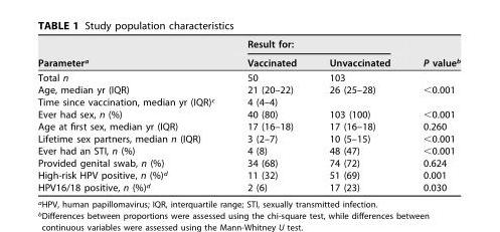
<table><thead><tr><td rowspan="2">Parameter<sup>a</sup></td><td colspan="2">Result for:</td><td rowspan="2">P value<sup>b</sup></td></tr><tr><td>Vaccinated</td><td>Unvaccinated</td></tr></thead><tbody><tr><td>Total n</td><td>50</td><td>103</td><td></td></tr><tr><td>Age, median yr (IQR)</td><td>21 (20–22)</td><td>26 (25–28)</td><td>&lt;0.001</td></tr><tr><td>Time since vaccination, median yr (IQR)<sup>c</sup></td><td>4 (4–4)</td><td></td><td></td></tr><tr><td>Ever had sex, n (%)</td><td>40 (80)</td><td>103 (100)</td><td>&lt;0.001</td></tr><tr><td>Age at first sex, median yr (IQR)</td><td>17 (16–18)</td><td>17 (16–18)</td><td>0.260</td></tr><tr><td>Lifetime sex partners, median n (IQR)</td><td>3 (2–7)</td><td>10 (5–15)</td><td>&lt;0.001</td></tr><tr><td>Ever had an STI, n (%)</td><td>4 (8)</td><td>48 (47)</td><td>&lt;0.001</td></tr><tr><td>Provided genital swab, n (%)</td><td>34 (68)</td><td>74 (72)</td><td>0.624</td></tr><tr><td>High-risk HPV positive, n (%)<sup>d</sup></td><td>11 (32)</td><td>51 (69)</td><td>0.001</td></tr><tr><td>HPV16/18 positive, n (%)<sup>d</sup></td><td>2 (6)</td><td>17 (23)</td><td>0.030</td></tr></tbody></table>